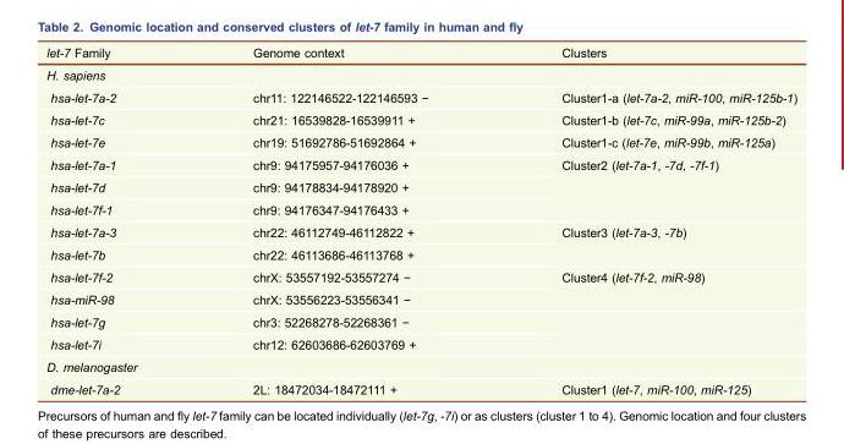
<table><thead><tr><td>let-7 Family</td><td>Genome context</td><td>Clusters</td></tr></thead><tbody><tr><td colspan="3">H. sapiens</td></tr><tr><td>hsa-let-7a-2</td><td>chr11: 122146522-122146593 −</td><td>Cluster1-a (let-7a-2, miR-100, miR-125b-1)</td></tr><tr><td>hsa-let-7c</td><td>chr21: 16539828-16539911 +</td><td>Cluster1-b (let-7c, miR-99a, miR-125b-2)</td></tr><tr><td>hsa-let-7e</td><td>chr19: 51692786-51692864 +</td><td>Cluster1-c (let-7e, miR-99b, miR-125a)</td></tr><tr><td>hsa-let-7a-1</td><td>chr9: 94175957-94176036 +</td><td rowspan="3">Cluster2 (let-7a-1, -7d, -7f-1)</td></tr><tr><td>hsa-let-7d</td><td>chr9: 94178834-94178920 +</td></tr><tr><td>hsa-let-7f-1</td><td>chr9: 94176347-94176433 +</td></tr><tr><td>hsa-let-7a-3</td><td>chr22: 46112749-46112822 +</td><td rowspan="2">Cluster3 (let-7a-3, -7b)</td></tr><tr><td>hsa-let-7b</td><td>chr22: 46113686-46113768 +</td></tr><tr><td>hsa-let-7f-2</td><td>chrX: 53557192-53557274 −</td><td rowspan="2">Cluster4 (let-7f-2, miR-98)</td></tr><tr><td>hsa-miR-98</td><td>chrX: 53556223-53556341 −</td></tr><tr><td>hsa-let-7g</td><td>chr3: 52268278-52268361 −</td><td></td></tr><tr><td>hsa-let-7i</td><td>chr12: 62603686-62603769 +</td><td></td></tr><tr><td colspan="3">D. melanogaster</td></tr><tr><td>dme-let-7a-2</td><td>2L: 18472034-18472111 +</td><td>Cluster1 (let-7, miR-100, miR-125)</td></tr></tbody></table>